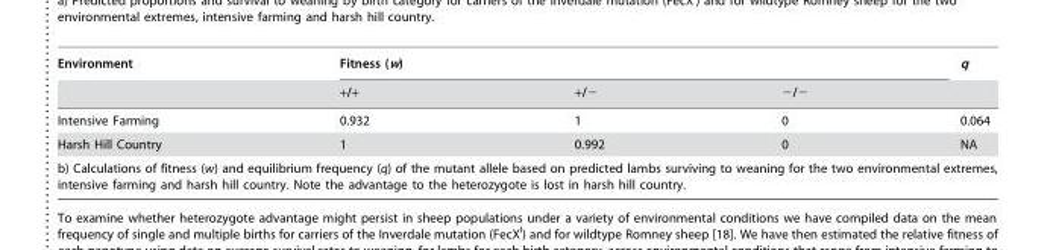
<table><thead><tr><td rowspan="2">Environment</td><td colspan="3">Fitness (w)</td><td rowspan="2">q</td></tr><tr><td>+/+</td><td>+/−</td><td>−/−</td></tr></thead><tbody><tr><td>Intensive Farming</td><td>0.932</td><td>1</td><td>0</td><td>0.064</td></tr><tr><td>Harsh Hill Country</td><td>1</td><td>0.992</td><td>0</td><td>NA</td></tr><tr><td colspan="5">b) Calculations of fitness (w) and equilibrium frequency (q) of the mutant allele based on predicted lambs surviving to weaning for the two environmental extremes, intensive farming and harsh hill country. Note the advantage to the heterozygote is lost in harsh hill country.</td></tr></tbody></table>